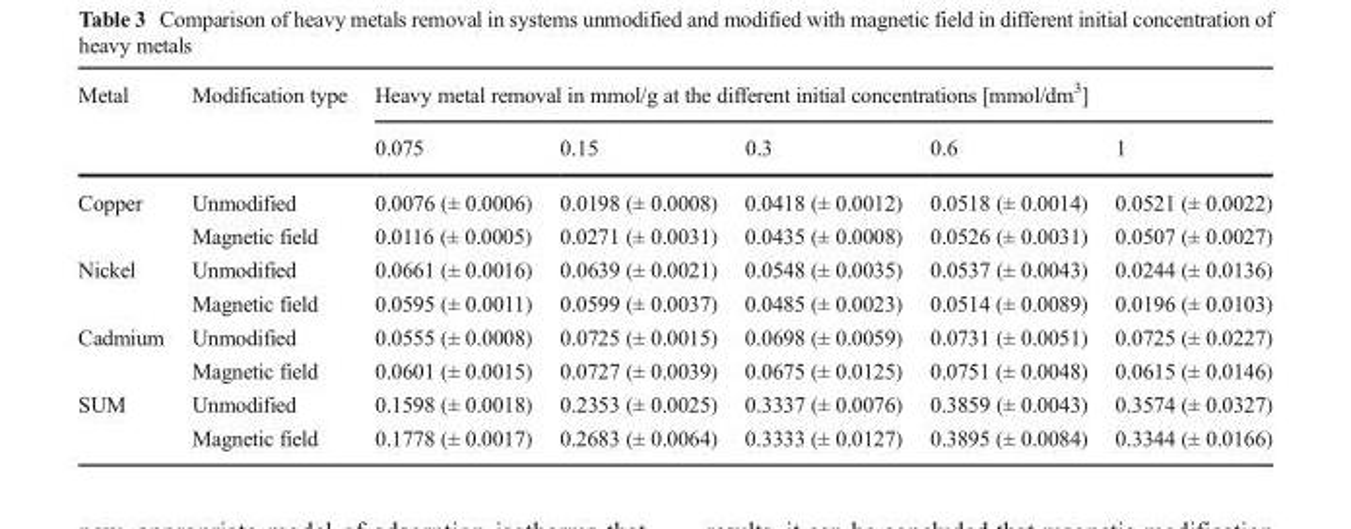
<table><thead><tr><td rowspan="2">Metal</td><td rowspan="2">Modification type</td><td colspan="5">Heavy metal removal in mmol/g at the different initial concentrations [mmol/dm<sup>3</sup>]</td></tr><tr><td>0.075</td><td>0.15</td><td>0.3</td><td>0.6</td><td>1</td></tr></thead><tbody><tr><td rowspan="2">Copper</td><td>Unmodified</td><td>0.0076 (± 0.0006)</td><td>0.0198 (± 0.0008)</td><td>0.0418 (± 0.0012)</td><td>0.0518 (± 0.0014)</td><td>0.0521 (± 0.0022)</td></tr><tr><td>Magnetic field</td><td>0.0116 (± 0.0005)</td><td>0.0271 (± 0.0031)</td><td>0.0435 (± 0.0008)</td><td>0.0526 (± 0.0031)</td><td>0.0507 (± 0.0027)</td></tr><tr><td rowspan="2">Nickel</td><td>Unmodified</td><td>0.0661 (± 0.0016)</td><td>0.0639 (± 0.0021)</td><td>0.0548 (± 0.0035)</td><td>0.0537 (± 0.0043)</td><td>0.0244 (± 0.0136)</td></tr><tr><td>Magnetic field</td><td>0.0595 (± 0.0011)</td><td>0.0599 (± 0.0037)</td><td>0.0485 (± 0.0023)</td><td>0.0514 (± 0.0089)</td><td>0.0196 (± 0.0103)</td></tr><tr><td rowspan="2">Cadmium</td><td>Unmodified</td><td>0.0555 (± 0.0008)</td><td>0.0725 (± 0.0015)</td><td>0.0698 (± 0.0059)</td><td>0.0731 (± 0.0051)</td><td>0.0725 (± 0.0227)</td></tr><tr><td>Magnetic field</td><td>0.0601 (± 0.0015)</td><td>0.0727 (± 0.0039)</td><td>0.0675 (± 0.0125)</td><td>0.0751 (± 0.0048)</td><td>0.0615 (± 0.0146)</td></tr><tr><td rowspan="2">SUM</td><td>Unmodified</td><td>0.1598 (± 0.0018)</td><td>0.2353 (± 0.0025)</td><td>0.3337 (± 0.0076)</td><td>0.3859 (± 0.0043)</td><td>0.3574 (± 0.0327)</td></tr><tr><td>Magnetic field</td><td>0.1778 (± 0.0017)</td><td>0.2683 (± 0.0064)</td><td>0.3333 (± 0.0127)</td><td>0.3895 (± 0.0084)</td><td>0.3344 (± 0.0166)</td></tr></tbody></table>